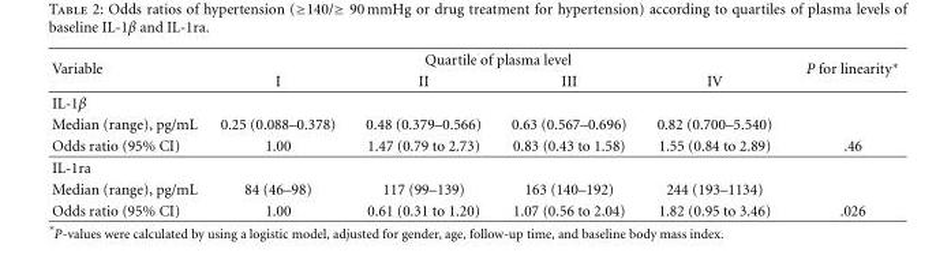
<table><thead><tr><td rowspan="2">Variable</td><td colspan="4">Quartile of plasma level</td><td rowspan="2">P for linearity∗</td></tr><tr><td>I</td><td>II</td><td>III</td><td>IV</td></tr></thead><tbody><tr><td colspan="6">IL-1β</td></tr><tr><td>Median (range), pg/mL</td><td>0.25 (0.088–0.378)</td><td>0.48 (0.379–0.566)</td><td>0.63 (0.567–0.696)</td><td>0.82 (0.700–5.540)</td><td></td></tr><tr><td>Odds ratio (95% CI)</td><td>1.00</td><td>1.47 (0.79 to 2.73)</td><td>0.83 (0.43 to 1.58)</td><td>1.55 (0.84 to 2.89)</td><td>.46</td></tr><tr><td colspan="6">IL-1ra</td></tr><tr><td>Median (range), pg/mL</td><td>84 (46–98)</td><td>117 (99–139)</td><td>163 (140–192)</td><td>244 (193–1134)</td><td></td></tr><tr><td>Odds ratio (95% CI)</td><td>1.00</td><td>0.61 (0.31 to 1.20)</td><td>1.07 (0.56 to 2.04)</td><td>1.82 (0.95 to 3.46)</td><td>.026</td></tr></tbody></table>